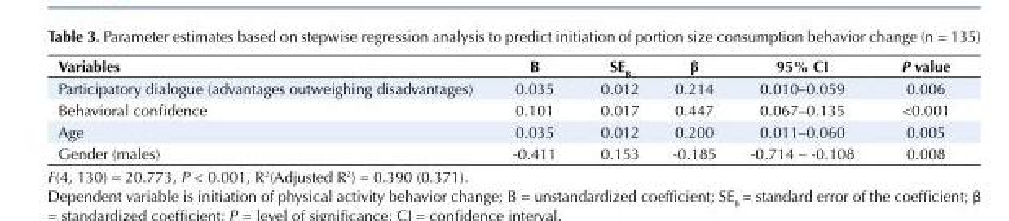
<table><tbody><tr><td>Variables</td><td>B</td><td>SE<sub>B</sub></td><td>β</td><td>95% CI</td><td>P value</td></tr><tr><td>Participatory dialogue (advantages outweighing disadvantages)</td><td>0.035</td><td>0.012</td><td>0.214</td><td>0.010–0.059</td><td>0.006</td></tr><tr><td>Behavioral confidence</td><td>0.101</td><td>0.017</td><td>0.447</td><td>0.067–0.135</td><td>&lt;0.001</td></tr><tr><td>Age</td><td>0.035</td><td>0.012</td><td>0.200</td><td>0.011–0.060</td><td>0.005</td></tr><tr><td>Gender (males)</td><td>-0.411</td><td>0.153</td><td>-0.185</td><td>-0.714 – -0.108</td><td>0.008</td></tr></tbody></table>